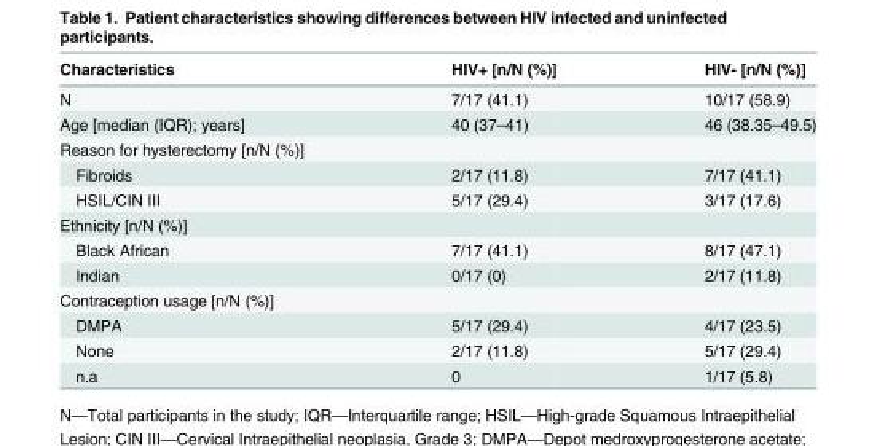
<table><thead><tr><td>Characteristics</td><td>HIV+ [n/N (%)]</td><td>HIV- [n/N (%)]</td></tr></thead><tbody><tr><td>N</td><td>7/17 (41.1)</td><td>10/17 (58.9)</td></tr><tr><td>Age [median (IQR); years]</td><td>40 (37–41)</td><td>46 (38.35–49.5)</td></tr><tr><td colspan="3">Reason for hysterectomy [n/N (%)]</td></tr><tr><td>Fibroids</td><td>2/17 (11.8)</td><td>7/17 (41.1)</td></tr><tr><td>HSIL/CIN III</td><td>5/17 (29.4)</td><td>3/17 (17.6)</td></tr><tr><td colspan="3">Ethnicity [n/N (%)]</td></tr><tr><td>Black African</td><td>7/17 (41.1)</td><td>8/17 (47.1)</td></tr><tr><td>Indian</td><td>0/17 (0)</td><td>2/17 (11.8)</td></tr><tr><td colspan="3">Contraception usage [n/N (%)]</td></tr><tr><td>DMPA</td><td>5/17 (29.4)</td><td>4/17 (23.5)</td></tr><tr><td>None</td><td>2/17 (11.8)</td><td>5/17 (29.4)</td></tr><tr><td>n.a</td><td>0</td><td>1/17 (5.8)</td></tr></tbody></table>